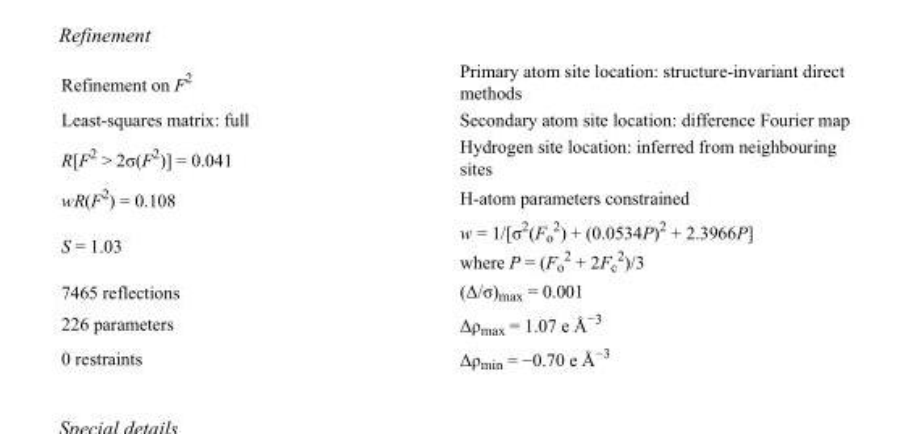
<table><tbody><tr><td>Refinement on F<sup>2</sup></td><td>Primary atom site location: structure-invariant direct methods</td></tr><tr><td>Least-squares matrix: full</td><td>Secondary atom site location: difference Fourier map</td></tr><tr><td>R[F<sup>2</sup> &gt; 2σ(F<sup>2</sup>)] = 0.041</td><td>Hydrogen site location: inferred from neighbouring sites</td></tr><tr><td>wR(F<sup>2</sup>) = 0.108</td><td>H-atom parameters constrained</td></tr><tr><td>S = 1.03</td><td>w = 1/[σ<sup>2</sup>(F<sub>o</sub> <sup>2</sup>) + (0.0534P)<sup>2</sup> + 2.3966P] where P = (F<sub>o</sub> <sup>2</sup> + 2F<sub>c</sub> <sup>2</sup>)/3</td></tr><tr><td>7465 reflections</td><td>(Δ/σ)<sub>max</sub> = 0.001</td></tr><tr><td>226 parameters</td><td>Δρ<sub>max</sub> = 1.07 e Å<sup>−3</sup></td></tr><tr><td>0 restraints</td><td>Δρmin = −0.70 e Å−3</td></tr></tbody></table>